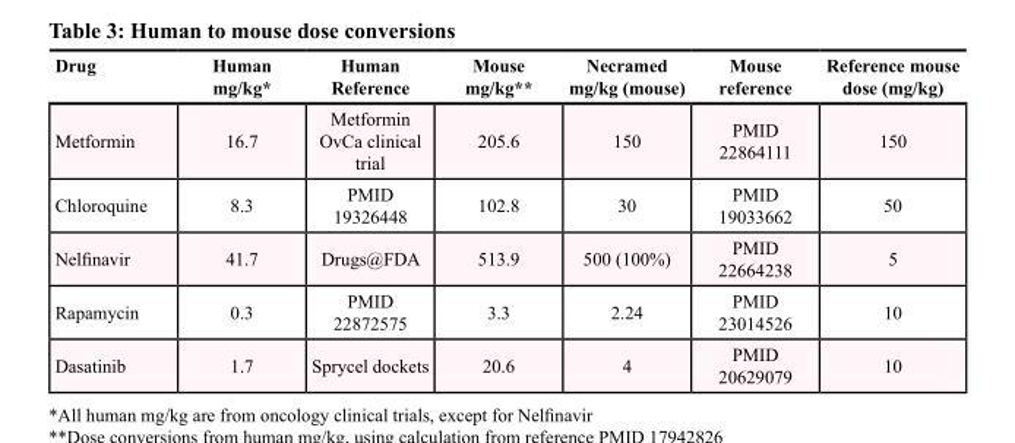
<table><thead><tr><td>Drug</td><td>Human mg/kg*</td><td>Human Reference</td><td>Mouse mg/kg**</td><td>Necramed mg/kg (mouse)</td><td>Mouse reference</td><td>Reference mouse dose (mg/kg)</td></tr></thead><tbody><tr><td>Metformin</td><td>16.7</td><td>Metformin OvCa clinical trial</td><td>205.6</td><td>150</td><td>PMID 22864111</td><td>150</td></tr><tr><td>Chloroquine</td><td>8.3</td><td>PMID 19326448</td><td>102.8</td><td>30</td><td>PMID 19033662</td><td>50</td></tr><tr><td>Nelfinavir</td><td>41.7</td><td>Drugs@FDA</td><td>513.9</td><td>500 (100%)</td><td>PMID 22664238</td><td>5</td></tr><tr><td>Rapamycin</td><td>0.3</td><td>PMID 22872575</td><td>3.3</td><td>2.24</td><td>PMID 23014526</td><td>10</td></tr><tr><td>Dasatinib</td><td>1.7</td><td>Sprycel dockets</td><td>20.6</td><td>4</td><td>PMID 20629079</td><td>10</td></tr></tbody></table>